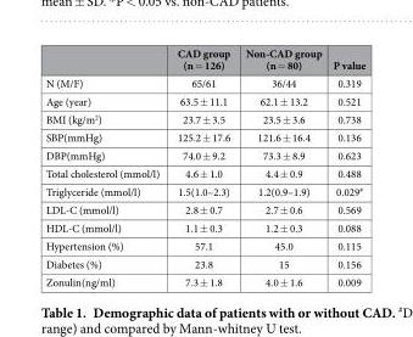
<table><thead><tr><td></td><td>CAD group (n = 126)</td><td>Non-CAD group (n = 80)</td><td>P value</td></tr></thead><tbody><tr><td>N (M/F)</td><td>65/61</td><td>36/44</td><td>0.319</td></tr><tr><td>Age (year)</td><td>63.5 ± 11.1</td><td>62.1 ± 13.2</td><td>0.521</td></tr><tr><td>BMI (kg/m<sup>2</sup>)</td><td>23.7 ± 3.5</td><td>23.5 ± 3.6</td><td>0.738</td></tr><tr><td>SBP(mmHg)</td><td>125.2 ± 17.6</td><td>121.6 ± 16.4</td><td>0.136</td></tr><tr><td>DBP(mmHg)</td><td>74.0 ± 9.2</td><td>73.3 ± 8.9</td><td>0.623</td></tr><tr><td>Total cholesterol (mmol/l)</td><td>4.6 ± 1.0</td><td>4.4 ± 0.9</td><td>0.488</td></tr><tr><td>Triglyceride (mmol/l)</td><td>1.5(1.0–2.3)</td><td>1.2(0.9–1.9)</td><td>0.029#</td></tr><tr><td>LDL-C (mmol/l)</td><td>2.8 ± 0.7</td><td>2.7 ± 0.6</td><td>0.569</td></tr><tr><td>HDL-C (mmol/l)</td><td>1.1 ± 0.3</td><td>1.2 ± 0.3</td><td>0.088</td></tr><tr><td>Hypertension (%)</td><td>57.1</td><td>45.0</td><td>0.115</td></tr><tr><td>Diabetes (%)</td><td>23.8</td><td>15</td><td>0.156</td></tr><tr><td>Zonulin(ng/ml)</td><td>7.3 ± 1.8</td><td>4.0 ± 1.6</td><td>0.009</td></tr></tbody></table>